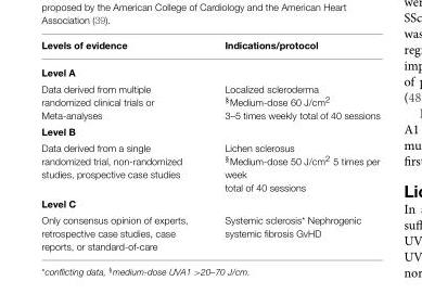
<table><thead><tr><td>Levels of evidence</td><td>Indications/protocol</td></tr></thead><tbody><tr><td colspan="2">Level A</td></tr><tr><td>Data derived from multiple randomized clinical trials or Meta-analyses</td><td>Localized scleroderma <sup>§</sup>Medium-dose 60 J/cm<sup>2</sup> 3–5 times weekly total of 40 sessions</td></tr><tr><td colspan="2">Level B</td></tr><tr><td>Data derived from a single randomized trial, non-randomized studies, prospective case studies</td><td>Lichen sclerosus <sup>§</sup>Medium-dose 50 J/cm<sup>2</sup> 5 times per week total of 40 sessions</td></tr><tr><td colspan="2">Level C</td></tr><tr><td>Only consensus opinion of experts, retrospective case studies, case reports, or standard-of-care</td><td>Systemic sclerosis* Nephrogenic systemic fibrosis GvHD</td></tr></tbody></table>